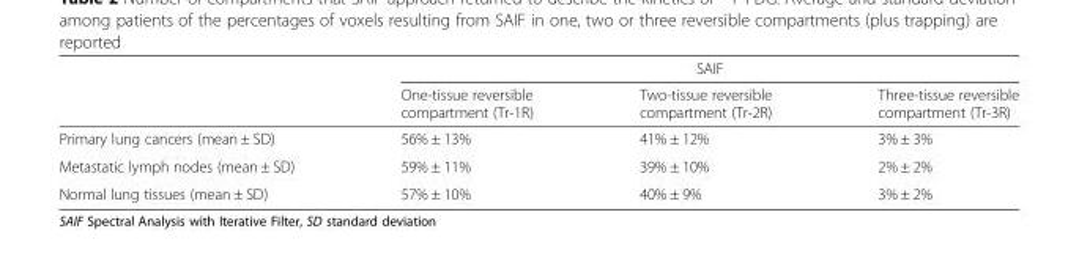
<table><thead><tr><td rowspan="2"></td><td colspan="3">SAIF</td></tr><tr><td>One-tissue reversible compartment (Tr-1R)</td><td>Two-tissue reversible compartment (Tr-2R)</td><td>Three-tissue reversible compartment (Tr-3R)</td></tr></thead><tbody><tr><td>Primary lung cancers (mean ± SD)</td><td>56% ± 13%</td><td>41% ± 12%</td><td>3% ± 3%</td></tr><tr><td>Metastatic lymph nodes (mean ± SD)</td><td>59% ± 11%</td><td>39% ± 10%</td><td>2% ± 2%</td></tr><tr><td>Normal lung tissues (mean ± SD)</td><td>57% ± 10%</td><td>40% ± 9%</td><td>3% ± 2%</td></tr></tbody></table>